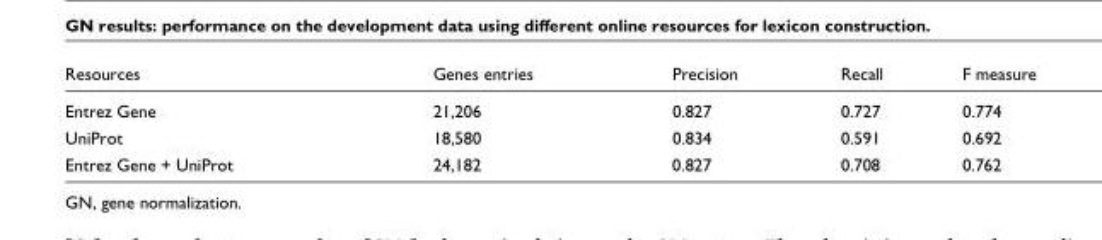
<table><thead><tr><td>Resources</td><td>Genes entries</td><td>Precision</td><td>Recall</td><td>F measure</td></tr></thead><tbody><tr><td>Entrez Gene</td><td>21,206</td><td>0.827</td><td>0.727</td><td>0.774</td></tr><tr><td>UniProt</td><td>18,580</td><td>0.834</td><td>0.591</td><td>0.692</td></tr><tr><td>Entrez Gene + UniProt</td><td>24,182</td><td>0.827</td><td>0.708</td><td>0.762</td></tr></tbody></table>